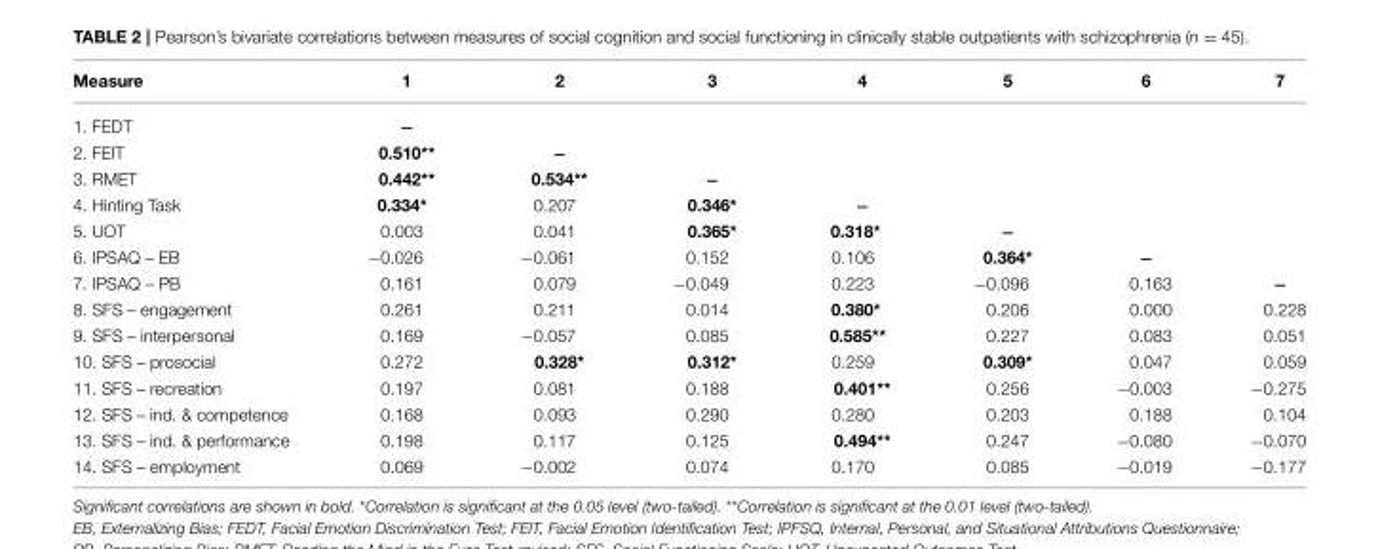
<table><thead><tr><td>Measure</td><td>1</td><td>2</td><td>3</td><td>4</td><td>5</td><td>6</td><td>7</td></tr></thead><tbody><tr><td>1. FEDT</td><td>−</td><td></td><td></td><td></td><td></td><td></td><td></td></tr><tr><td>2. FEIT</td><td>0.510**</td><td>−</td><td></td><td></td><td></td><td></td><td></td></tr><tr><td>3. RMET</td><td>0.442**</td><td>0.534**</td><td>−</td><td></td><td></td><td></td><td></td></tr><tr><td>4. Hinting Task</td><td>0.334*</td><td>0.207</td><td>0.346*</td><td>−</td><td></td><td></td><td></td></tr><tr><td>5. UOT</td><td>0.003</td><td>0.041</td><td>0.365*</td><td>0.318*</td><td>−</td><td></td><td></td></tr><tr><td>6. IPSAQ – EB</td><td>−0.026</td><td>−0.061</td><td>0.152</td><td>0.106</td><td>0.364*</td><td>−</td><td></td></tr><tr><td>7. IPSAQ – PB</td><td>0.161</td><td>0.079</td><td>−0.049</td><td>0.223</td><td>−0.096</td><td>0.163</td><td>−</td></tr><tr><td>8. SFS – engagement</td><td>0.261</td><td>0.211</td><td>0.014</td><td>0.380*</td><td>0.206</td><td>0.000</td><td>0.228</td></tr><tr><td>9. SFS – interpersonal</td><td>0.169</td><td>−0.057</td><td>0.085</td><td>0.585**</td><td>0.227</td><td>0.083</td><td>0.051</td></tr><tr><td>10. SFS – prosocial</td><td>0.272</td><td>0.328*</td><td>0.312*</td><td>0.259</td><td>0.309*</td><td>0.047</td><td>0.059</td></tr><tr><td>11. SFS – recreation</td><td>0.197</td><td>0.081</td><td>0.188</td><td>0.401**</td><td>0.256</td><td>−0.003</td><td>−0.275</td></tr><tr><td>12. SFS – ind. &amp; competence</td><td>0.168</td><td>0.093</td><td>0.290</td><td>0.280</td><td>0.203</td><td>0.188</td><td>0.104</td></tr><tr><td>13. SFS – ind. &amp; performance</td><td>0.198</td><td>0.117</td><td>0.125</td><td>0.494**</td><td>0.247</td><td>−0.080</td><td>−0.070</td></tr><tr><td>14. SFS – employment</td><td>0.069</td><td>−0.002</td><td>0.074</td><td>0.170</td><td>0.085</td><td>−0.019</td><td>−0.177</td></tr></tbody></table>